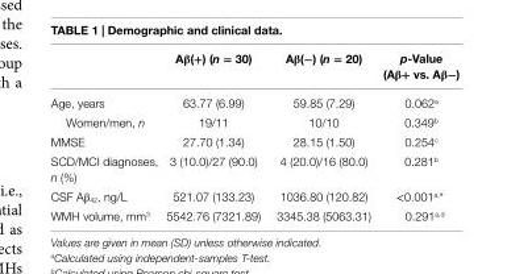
<table><thead><tr><td></td><td>aβ(+) (n = 30)</td><td>aβ(−) (n = 20)</td><td>p-Value (aβ+ vs. aβ−)</td></tr></thead><tbody><tr><td>Age, years</td><td>63.77 (6.99)</td><td>59.85 (7.29)</td><td>0.062<sup>a</sup></td></tr><tr><td>Women/men, n</td><td>19/11</td><td>10/10</td><td>0.349<sup>b</sup></td></tr><tr><td>MMSE</td><td>27.70 (1.34)</td><td>28.15 (1.50)</td><td>0.254<sup>c</sup></td></tr><tr><td>SCD/MCI diagnoses, n (%)</td><td>3 (10.0)/27 (90.0)</td><td>4 (20.0)/16 (80.0)</td><td>0.281<sup>b</sup></td></tr><tr><td>CSF Aβ<sub>42</sub>, ng/L</td><td>521.07 (133.23)</td><td>1036.80 (120.82)</td><td>&lt;0.001<sup>a,</sup>*</td></tr><tr><td>WMH volume, mm<sup>3</sup></td><td>5542.76 (7321.89)</td><td>3345.38 (5063.31)</td><td>0.291<sup>a,d</sup></td></tr></tbody></table>